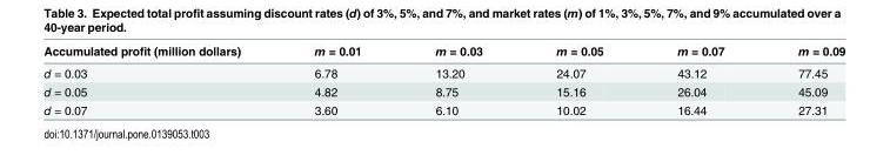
<table><thead><tr><td>Accumulated profit (million dollars)</td><td>m = 0.01</td><td>m = 0.03</td><td>m = 0.05</td><td>m = 0.07</td><td>m = 0.09</td></tr></thead><tbody><tr><td>d = 0.03</td><td>6.78</td><td>13.20</td><td>24.07</td><td>43.12</td><td>77.45</td></tr><tr><td>d = 0.05</td><td>4.82</td><td>8.75</td><td>15.16</td><td>26.04</td><td>45.09</td></tr><tr><td>d = 0.07</td><td>3.60</td><td>6.10</td><td>10.02</td><td>16.44</td><td>27.31</td></tr></tbody></table>